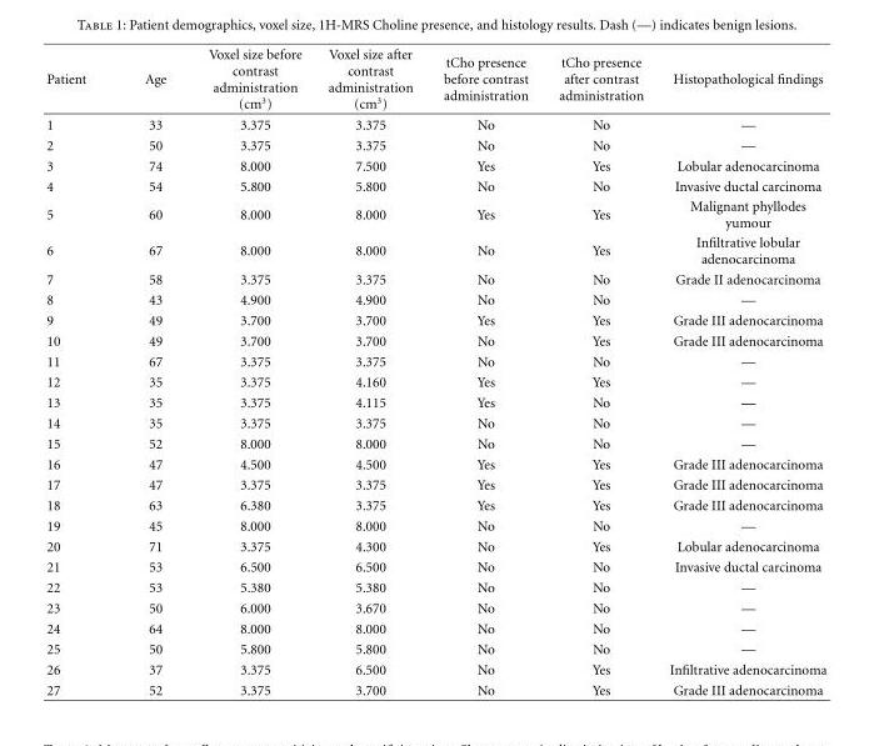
<table><thead><tr><td>Patient</td><td>Age</td><td>Voxel size before contrast administration (cm<sup>3</sup>)</td><td>Voxel size after contrast administration (cm<sup>3</sup>)</td><td>tCho presence before contrast administration</td><td>tCho presence after contrast administration</td><td>Histopathological findings</td></tr></thead><tbody><tr><td>1</td><td>33</td><td>3.375</td><td>3.375</td><td>No</td><td>No</td><td>—</td></tr><tr><td>2</td><td>50</td><td>3.375</td><td>3.375</td><td>No</td><td>No</td><td>—</td></tr><tr><td>3</td><td>74</td><td>8.000</td><td>7.500</td><td>Yes</td><td>Yes</td><td>Lobular adenocarcinoma</td></tr><tr><td>4</td><td>54</td><td>5.800</td><td>5.800</td><td>No</td><td>No</td><td>Invasive ductal carcinoma</td></tr><tr><td>5</td><td>60</td><td>8.000</td><td>8.000</td><td>Yes</td><td>Yes</td><td>Malignant phyllodes yumour</td></tr><tr><td>6</td><td>67</td><td>8.000</td><td>8.000</td><td>No</td><td>Yes</td><td>Infiltrative lobular adenocarcinoma</td></tr><tr><td>7</td><td>58</td><td>3.375</td><td>3.375</td><td>No</td><td>No</td><td>Grade II adenocarcinoma</td></tr><tr><td>8</td><td>43</td><td>4.900</td><td>4.900</td><td>No</td><td>No</td><td>—</td></tr><tr><td>9</td><td>49</td><td>3.700</td><td>3.700</td><td>Yes</td><td>Yes</td><td>Grade III adenocarcinoma</td></tr><tr><td>10</td><td>49</td><td>3.700</td><td>3.700</td><td>No</td><td>Yes</td><td>Grade III adenocarcinoma</td></tr><tr><td>11</td><td>67</td><td>3.375</td><td>3.375</td><td>No</td><td>No</td><td>—</td></tr><tr><td>12</td><td>35</td><td>3.375</td><td>4.160</td><td>Yes</td><td>Yes</td><td>—</td></tr><tr><td>13</td><td>35</td><td>3.375</td><td>4.115</td><td>Yes</td><td>No</td><td>—</td></tr><tr><td>14</td><td>35</td><td>3.375</td><td>3.375</td><td>No</td><td>No</td><td>—</td></tr><tr><td>15</td><td>52</td><td>8.000</td><td>8.000</td><td>No</td><td>No</td><td>—</td></tr><tr><td>16</td><td>47</td><td>4.500</td><td>4.500</td><td>Yes</td><td>Yes</td><td>Grade III adenocarcinoma</td></tr><tr><td>17</td><td>47</td><td>3.375</td><td>3.375</td><td>Yes</td><td>Yes</td><td>Grade III adenocarcinoma</td></tr><tr><td>18</td><td>63</td><td>6.380</td><td>3.375</td><td>Yes</td><td>Yes</td><td>Grade III adenocarcinoma</td></tr><tr><td>19</td><td>45</td><td>8.000</td><td>8.000</td><td>No</td><td>No</td><td>—</td></tr><tr><td>20</td><td>71</td><td>3.375</td><td>4.300</td><td>No</td><td>Yes</td><td>Lobular adenocarcinoma</td></tr><tr><td>21</td><td>53</td><td>6.500</td><td>6.500</td><td>No</td><td>No</td><td>Invasive ductal carcinoma</td></tr><tr><td>22</td><td>53</td><td>5.380</td><td>5.380</td><td>No</td><td>No</td><td>—</td></tr><tr><td>23</td><td>50</td><td>6.000</td><td>3.670</td><td>No</td><td>No</td><td>—</td></tr><tr><td>24</td><td>64</td><td>8.000</td><td>8.000</td><td>No</td><td>No</td><td>—</td></tr><tr><td>25</td><td>50</td><td>5.800</td><td>5.800</td><td>No</td><td>No</td><td>—</td></tr><tr><td>26</td><td>37</td><td>3.375</td><td>6.500</td><td>No</td><td>Yes</td><td>Infiltrative adenocarcinoma</td></tr><tr><td>27</td><td>52</td><td>3.375</td><td>3.700</td><td>No</td><td>Yes</td><td>Grade III adenocarcinoma</td></tr></tbody></table>